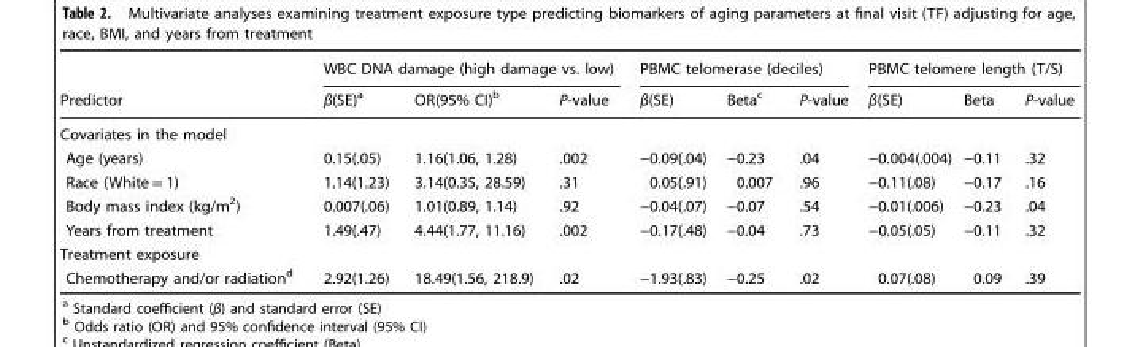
<table><thead><tr><td rowspan="2">Predictor</td><td colspan="3">WBC DNA damage (high damage vs. low)</td><td colspan="3">PBMC telomerase (deciles)</td><td colspan="3">PBMC telomere length (T/S)</td></tr><tr><td>β(SE)<sup>a</sup></td><td>OR(95% CI)<sup>b</sup></td><td>P-value</td><td>β(SE)</td><td>Beta<sup>c</sup></td><td>P-value</td><td>β(SE)</td><td>Beta</td><td>P-value</td></tr></thead><tbody><tr><td colspan="10">Covariates in the model</td></tr><tr><td>Age (years)</td><td>0.15(.05)</td><td>1.16(1.06, 1.28)</td><td>.002</td><td>−0.09(.04)</td><td>−0.23</td><td>.04</td><td>−0.004(.004)</td><td>−0.11</td><td>.32</td></tr><tr><td>Race (White = 1)</td><td>1.14(1.23)</td><td>3.14(0.35, 28.59)</td><td>.31</td><td>0.05(.91)</td><td>0.007</td><td>.96</td><td>−0.11(.08)</td><td>−0.17</td><td>.16</td></tr><tr><td>Body mass index (kg/m<sup>2</sup>)</td><td>0.007(.06)</td><td>1.01(0.89, 1.14)</td><td>.92</td><td>−0.04(.07)</td><td>−0.07</td><td>.54</td><td>−0.01(.006)</td><td>−0.23</td><td>.04</td></tr><tr><td>Years from treatment</td><td>1.49(.47)</td><td>4.44(1.77, 11.16)</td><td>.002</td><td>−0.17(.48)</td><td>−0.04</td><td>.73</td><td>−0.05(.05)</td><td>−0.11</td><td>.32</td></tr><tr><td colspan="10">Treatment exposure</td></tr><tr><td>Chemotherapy and/or radiation<sup>d</sup></td><td>2.92(1.26)</td><td>18.49(1.56, 218.9)</td><td>.02</td><td>−1.93(.83)</td><td>−0.25</td><td>.02</td><td>0.07(.08)</td><td>0.09</td><td>.39</td></tr></tbody></table>